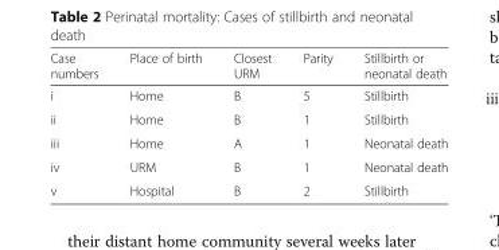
<table><thead><tr><td>Case numbers</td><td>Place of birth</td><td>Closest URM</td><td>Parity</td><td>Stillbirth or neonatal death</td></tr></thead><tbody><tr><td>i</td><td>Home</td><td>B</td><td>5</td><td>Stillbirth</td></tr><tr><td>ii</td><td>Home</td><td>B</td><td>1</td><td>Stillbirth</td></tr><tr><td>iii</td><td>Home</td><td>A</td><td>1</td><td>Neonatal death</td></tr><tr><td>iv</td><td>URM</td><td>B</td><td>1</td><td>Neonatal death</td></tr><tr><td>v</td><td>Hospital</td><td>B</td><td>2</td><td>Stillbirth</td></tr></tbody></table>